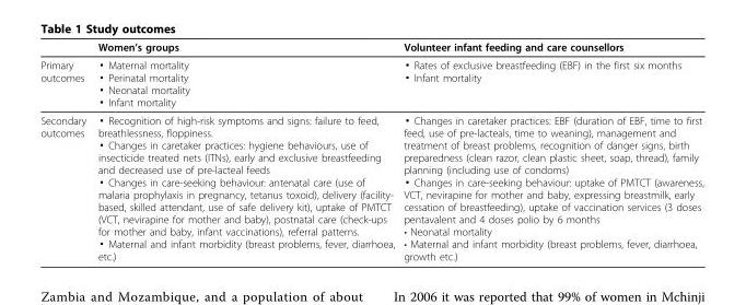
<table><thead><tr><td></td><td>Women’s groups</td><td>Volunteer infant feeding and care counsellors</td></tr></thead><tbody><tr><td>Primary outcomes</td><td>▪ Maternal mortality ▪ Perinatal mortality ▪ Neonatal mortality ▪ Infant mortality</td><td>▪ Rates of exclusive breastfeeding (EBF) in the first six months ▪ Infant mortality</td></tr><tr><td>Secondary outcomes</td><td>▪ Recognition of high-risk symptoms and signs: failure to feed, breathlessness, floppiness. ▪ Changes in caretaker practices: hygiene behaviours, use of insecticide treated nets (ITNs), early and exclusive breastfeeding and decreased use of pre-lacteal feeds ▪ Changes in care-seeking behaviour: antenatal care (use of malaria prophylaxis in pregnancy, tetanus toxoid), delivery (facility- based, skilled attendant, use of safe delivery kit), uptake of PMTCT (VCT, nevirapine for mother and baby), postnatal care (check-ups for mother and baby, infant vaccinations), referral patterns. ▪ Maternal and infant morbidity (breast problems, fever, diarrhoea, etc.)</td><td>▪ Changes in caretaker practices: EBF (duration of EBF, time to first feed, use of pre-lacteals, time to weaning), management and treatment of breast problems, recognition of danger signs, birth preparedness (clean razor, clean plastic sheet, soap, thread), family planning (including use of condoms) ▪ Changes in care-seeking behaviour: uptake of PMTCT (awareness, VCT, nevirapine for mother and baby, expressing breastmilk, early cessation of breastfeeding), uptake of vaccination services (3 doses pentavalent and 4 doses polio by 6 months • Neonatal mortality • Maternal and infant morbidity (breast problems, fever, diarrhoea, growth etc.)</td></tr></tbody></table>